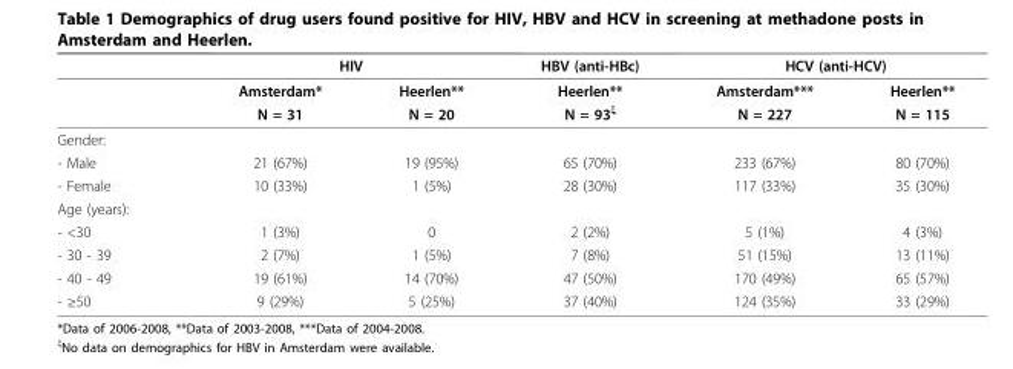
<table><thead><tr><td rowspan="2"></td><td colspan="2">HIV</td><td rowspan="2">HBV (anti-HBc) Heerlen**</td><td colspan="2">HCV (anti-HCV)</td></tr><tr><td>Amsterdam*</td><td>Heerlen**</td><td>Amsterdam***</td><td>Heerlen**</td></tr></thead><tbody><tr><td></td><td>N = 31</td><td>N = 20</td><td>N = 93<sup>ξ</sup></td><td>N = 227</td><td>N = 115</td></tr><tr><td colspan="6">Gender:</td></tr><tr><td>- Male</td><td>21 (67%)</td><td>19 (95%)</td><td>65 (70%)</td><td>233 (67%)</td><td>80 (70%)</td></tr><tr><td>- Female</td><td>10 (33%)</td><td>1 (5%)</td><td>28 (30%)</td><td>117 (33%)</td><td>35 (30%)</td></tr><tr><td colspan="6">Age (years):</td></tr><tr><td>- &lt;30</td><td>1 (3%)</td><td>0</td><td>2 (2%)</td><td>5 (1%)</td><td>4 (3%)</td></tr><tr><td>- 30 - 39</td><td>2 (7%)</td><td>1 (5%)</td><td>7 (8%)</td><td>51 (15%)</td><td>13 (11%)</td></tr><tr><td>- 40 - 49</td><td>19 (61%)</td><td>14 (70%)</td><td>47 (50%)</td><td>170 (49%)</td><td>65 (57%)</td></tr><tr><td>- ≥50</td><td>9 (29%)</td><td>5 (25%)</td><td>37 (40%)</td><td>124 (35%)</td><td>33 (29%)</td></tr></tbody></table>